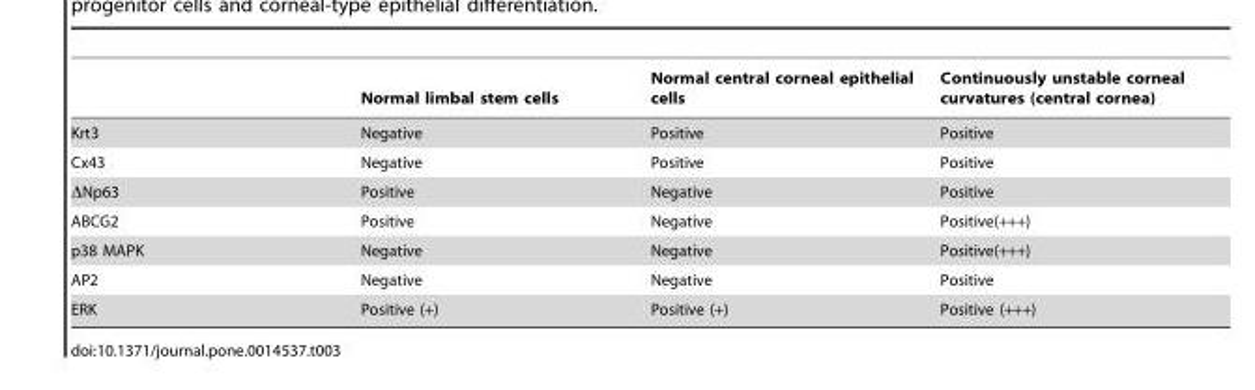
<table><thead><tr><td></td><td>Normal limbal stem cells</td><td>Normal central corneal epithelial cells</td><td>Continuously unstable corneal curvatures (central cornea)</td></tr></thead><tbody><tr><td>Krt3</td><td>Negative</td><td>Positive</td><td>Positive</td></tr><tr><td>Cx43</td><td>Negative</td><td>Positive</td><td>Positive</td></tr><tr><td>ΔNp63</td><td>Positive</td><td>Negative</td><td>Positive</td></tr><tr><td>ABCG2</td><td>Positive</td><td>Negative</td><td>Positive(+++)</td></tr><tr><td>p38 MAPK</td><td>Negative</td><td>Negative</td><td>Positive(+++)</td></tr><tr><td>AP2</td><td>Negative</td><td>Negative</td><td>Positive</td></tr><tr><td>ERK</td><td>Positive (+)</td><td>Positive (+)</td><td>Positive (+++)</td></tr></tbody></table>